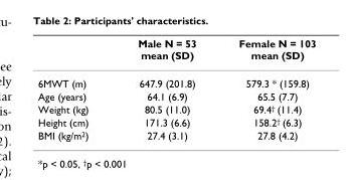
<table><thead><tr><td></td><td>Male N = 53 mean (SD)</td><td>Female N = 103 mean (SD)</td></tr></thead><tbody><tr><td>6MWT (m)</td><td>647.9 (201.8)</td><td>579.3 * (159.8)</td></tr><tr><td>Age (years)</td><td>64.1 (6.9)</td><td>65.5 (7.7)</td></tr><tr><td>Weight (kg)</td><td>80.5 (11.0)</td><td>69.4<sup>†</sup> (11.4)</td></tr><tr><td>Height (cm)</td><td>171.3 (6.6)</td><td>158.2<sup>†</sup> (6.3)</td></tr><tr><td>BMI (kg/m<sup>2</sup>)</td><td>27.4 (3.1)</td><td>27.8 (4.2)</td></tr></tbody></table>